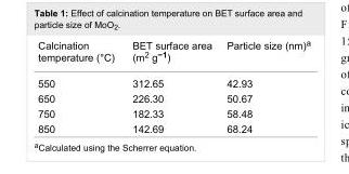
<table><tbody><tr><td>Calcination temperature (°C)</td><td>BET surface area (m<sup>2</sup> g<sup>−1</sup>)</td><td>Particle size (nm)<sup>a</sup></td></tr><tr><td>550</td><td>312.65</td><td>42.93</td></tr><tr><td>650</td><td>226.30</td><td>50.67</td></tr><tr><td>750</td><td>182.33</td><td>58.48</td></tr><tr><td>850</td><td>142.69</td><td>68.24</td></tr></tbody></table>